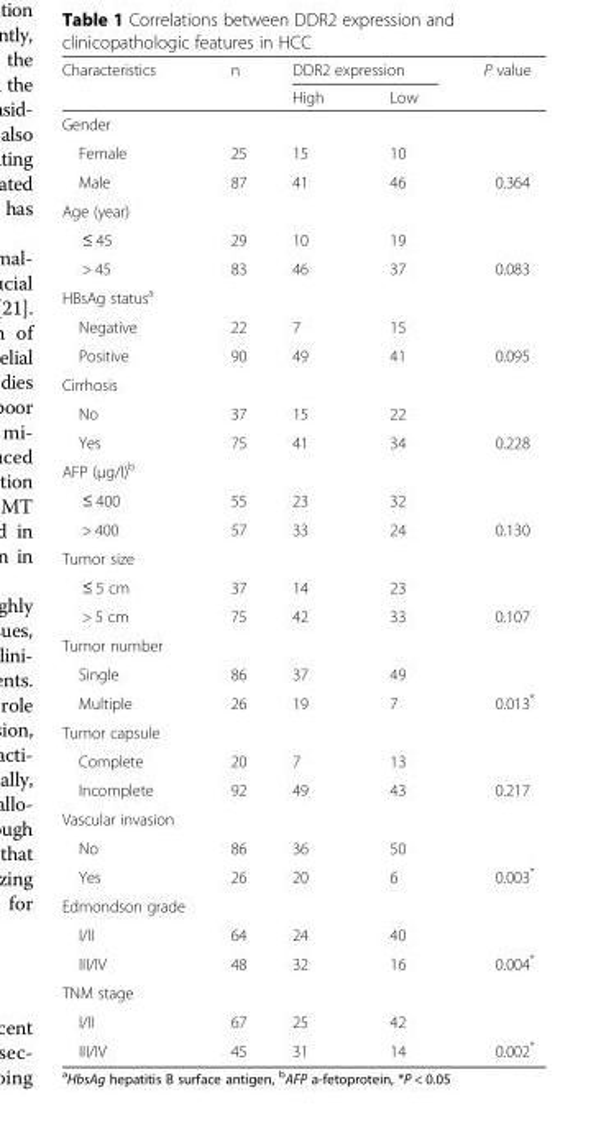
<table><thead><tr><td rowspan="2">Characteristics</td><td rowspan="2">n</td><td colspan="2">DDR2 expression</td><td rowspan="2">P value</td></tr><tr><td>High</td><td>Low</td></tr></thead><tbody><tr><td colspan="5">Gender</td></tr><tr><td>Female</td><td>25</td><td>15</td><td>10</td><td></td></tr><tr><td>Male</td><td>87</td><td>41</td><td>46</td><td>0.364</td></tr><tr><td colspan="5">Age (year)</td></tr><tr><td>≤ 45</td><td>29</td><td>10</td><td>19</td><td></td></tr><tr><td>&gt; 45</td><td>83</td><td>46</td><td>37</td><td>0.083</td></tr><tr><td colspan="5">HBsAg status<sup>a</sup></td></tr><tr><td>Negative</td><td>22</td><td>7</td><td>15</td><td></td></tr><tr><td>Positive</td><td>90</td><td>49</td><td>41</td><td>0.095</td></tr><tr><td colspan="5">Cirrhosis</td></tr><tr><td>No</td><td>37</td><td>15</td><td>22</td><td></td></tr><tr><td>Yes</td><td>75</td><td>41</td><td>34</td><td>0.228</td></tr><tr><td colspan="5">AFP (μg/l)<sup>b</sup></td></tr><tr><td>≤ 400</td><td>55</td><td>23</td><td>32</td><td></td></tr><tr><td>&gt; 400</td><td>57</td><td>33</td><td>24</td><td>0.130</td></tr><tr><td colspan="5">Tumor size</td></tr><tr><td>≤ 5 cm</td><td>37</td><td>14</td><td>23</td><td></td></tr><tr><td>&gt; 5 cm</td><td>75</td><td>42</td><td>33</td><td>0.107</td></tr><tr><td colspan="5">Tumor number</td></tr><tr><td>Single</td><td>86</td><td>37</td><td>49</td><td></td></tr><tr><td>Multiple</td><td>26</td><td>19</td><td>7</td><td>0.013*</td></tr><tr><td colspan="5">Tumor capsule</td></tr><tr><td>Complete</td><td>20</td><td>7</td><td>13</td><td></td></tr><tr><td>Incomplete</td><td>92</td><td>49</td><td>43</td><td>0.217</td></tr><tr><td colspan="5">Vascular invasion</td></tr><tr><td>No</td><td>86</td><td>36</td><td>50</td><td></td></tr><tr><td>Yes</td><td>26</td><td>20</td><td>6</td><td>0.003*</td></tr><tr><td colspan="5">Edmondson grade</td></tr><tr><td>I/II</td><td>64</td><td>24</td><td>40</td><td></td></tr><tr><td>III/IV</td><td>48</td><td>32</td><td>16</td><td>0.004*</td></tr><tr><td colspan="5">TNM stage</td></tr><tr><td>I/II</td><td>67</td><td>25</td><td>42</td><td></td></tr><tr><td>III/IV</td><td>45</td><td>31</td><td>14</td><td>0.002*</td></tr></tbody></table>